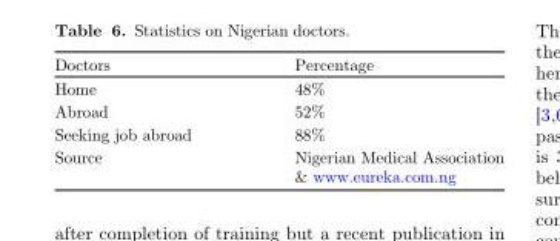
<table><thead><tr><td>Doctors</td><td>Percentage</td></tr></thead><tbody><tr><td>Home</td><td>48%</td></tr><tr><td>Abroad</td><td>52%</td></tr><tr><td>Seeking job abroad</td><td>88%</td></tr><tr><td>Source</td><td>Nigerian Medical Association &amp; www.eureka.com.ng</td></tr></tbody></table>